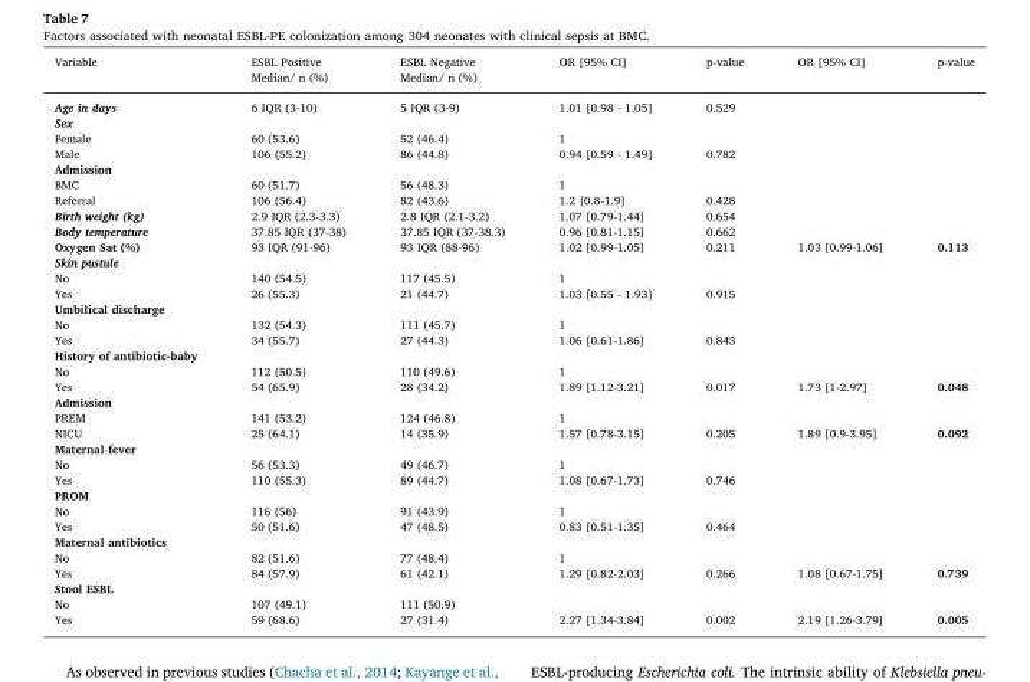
<table><thead><tr><td rowspan="2">Variable</td><td rowspan="2">ESBL Positive Median/ n (%)</td><td rowspan="2">ESBL Negative Median/ n (%)</td><td rowspan="2">OR [95% CI]</td><td rowspan="2">p-value</td><td rowspan="2">OR [95% CI]</td><td rowspan="2">p-value</td></tr><tr></tr></thead><tbody><tr><td>Age in days</td><td>6 IQR (3-10)</td><td>5 IQR (3-9)</td><td>1.01 [0.98 - 1.05]</td><td>0.529</td><td></td><td></td></tr><tr><td colspan="7">Sex</td></tr><tr><td>Female</td><td>60 (53.6)</td><td>52 (46.4)</td><td>1</td><td></td><td></td><td></td></tr><tr><td>Male</td><td>106 (55.2)</td><td>86 (44.8)</td><td>0.94 [0.59 - 1.49]</td><td>0.782</td><td></td><td></td></tr><tr><td colspan="7">Admission</td></tr><tr><td>BMC</td><td>60 (51.7)</td><td>56 (48.3)</td><td>1</td><td></td><td></td><td></td></tr><tr><td>Referral</td><td>106 (56.4)</td><td>82 (43.6)</td><td>1.2 [0.8-1.9]</td><td>0.428</td><td></td><td></td></tr><tr><td>Birth weight (kg)</td><td>2.9 IQR (2.3-3.3)</td><td>2.8 IQR (2.1-3.2)</td><td>1.07 [0.79-1.44]</td><td>0.654</td><td></td><td></td></tr><tr><td>Body temperature</td><td>37.85 IQR (37-38)</td><td>37.85 IQR (37-38.3)</td><td>0.96 [0.81-1.15]</td><td>0.662</td><td></td><td></td></tr><tr><td>Oxygen Sat (%)</td><td>93 IQR (91-96)</td><td>93 IQR (88-96)</td><td>1.02 [0.99-1.05]</td><td>0.211</td><td>1.03 [0.99-1.06]</td><td>0.113</td></tr><tr><td colspan="7">Skin pustule</td></tr><tr><td>No</td><td>140 (54.5)</td><td>117 (45.5)</td><td>1</td><td></td><td></td><td></td></tr><tr><td>Yes</td><td>26 (55.3)</td><td>21 (44.7)</td><td>1.03 [0.55 - 1.93]</td><td>0.915</td><td></td><td></td></tr><tr><td colspan="7">Umbilical discharge</td></tr><tr><td>No</td><td>132 (54.3)</td><td>111 (45.7)</td><td>1</td><td></td><td></td><td></td></tr><tr><td>Yes</td><td>34 (55.7)</td><td>27 (44.3)</td><td>1.06 [0.61-1.86]</td><td>0.843</td><td></td><td></td></tr><tr><td colspan="7">History of antibiotic-baby</td></tr><tr><td>No</td><td>112 (50.5)</td><td>110 (49.6)</td><td>1</td><td></td><td></td><td></td></tr><tr><td>Yes</td><td>54 (65.9)</td><td>28 (34.2)</td><td>1.89 [1.12-3.21]</td><td>0.017</td><td>1.73 [1-2.97]</td><td>0.048</td></tr><tr><td colspan="7">Admission</td></tr><tr><td>PREM</td><td>141 (53.2)</td><td>124 (46.8)</td><td>1</td><td></td><td></td><td></td></tr><tr><td>NICU</td><td>25 (64.1)</td><td>14 (35.9)</td><td>1.57 [0.78-3.15]</td><td>0.205</td><td>1.89 [0.9-3.95]</td><td>0.092</td></tr><tr><td colspan="7">Maternal fever</td></tr><tr><td>No</td><td>56 (53.3)</td><td>49 (46.7)</td><td>1</td><td></td><td></td><td></td></tr><tr><td>Yes</td><td>110 (55.3)</td><td>89 (44.7)</td><td>1.08 [0.67-1.73]</td><td>0.746</td><td></td><td></td></tr><tr><td colspan="7">PROM</td></tr><tr><td>No</td><td>116 (56)</td><td>91 (43.9)</td><td>1</td><td></td><td></td><td></td></tr><tr><td>Yes</td><td>50 (51.6)</td><td>47 (48.5)</td><td>0.83 [0.51-1.35]</td><td>0.464</td><td></td><td></td></tr><tr><td colspan="7">Maternal antibiotics</td></tr><tr><td>No</td><td>82 (51.6)</td><td>77 (48.4)</td><td>1</td><td></td><td></td><td></td></tr><tr><td>Yes</td><td>84 (57.9)</td><td>61 (42.1)</td><td>1.29 [0.82-2.03]</td><td>0.266</td><td>1.08 [0.67-1.75]</td><td>0.739</td></tr><tr><td colspan="7">Stool ESBL</td></tr><tr><td>No</td><td>107 (49.1)</td><td>111 (50.9)</td><td></td><td></td><td></td><td></td></tr><tr><td>Yes</td><td>59 (68.6)</td><td>27 (31.4)</td><td>2.27 [1.34-3.84]</td><td>0.002</td><td>2.19 [1.26-3.79]</td><td>0.005</td></tr></tbody></table>